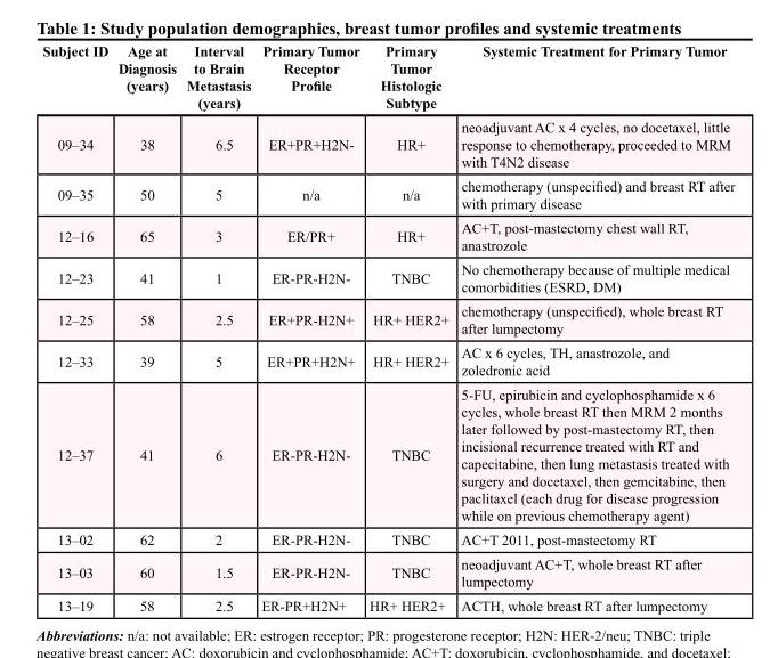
<table><thead><tr><td>Subject ID</td><td>Age at Diagnosis (years)</td><td>Interval to Brain Metastasis (years)</td><td>Primary Tumor Receptor Profile</td><td>Primary Tumor Histologic Subtype</td><td>Systemic Treatment for Primary Tumor</td></tr></thead><tbody><tr><td>09–34</td><td>38</td><td>6.5</td><td>ER+PR+H2N-</td><td>HR+</td><td>neoadjuvant AC x 4 cycles, no docetaxel, little response to chemotherapy, proceeded to MRM with T4N2 disease</td></tr><tr><td>09–35</td><td>50</td><td>5</td><td>n/a</td><td>n/a</td><td>chemotherapy (unspecified) and breast RT after with primary disease</td></tr><tr><td>12–16</td><td>65</td><td>3</td><td>ER/PR+</td><td>HR+</td><td>AC+T, post-mastectomy chest wall RT, anastrozole</td></tr><tr><td>12–23</td><td>41</td><td>1</td><td>ER-PR-H2N-</td><td>TNBC</td><td>No chemotherapy because of multiple medical comorbidities (ESRD, DM)</td></tr><tr><td>12–25</td><td>58</td><td>2.5</td><td>ER+PR-H2N+</td><td>HR+ HER2+</td><td>chemotherapy (unspecified), whole breast RT after lumpectomy</td></tr><tr><td>12–33</td><td>39</td><td>5</td><td>ER+PR+H2N+</td><td>HR+ HER2+</td><td>AC x 6 cycles, TH, anastrozole, and zoledronic acid</td></tr><tr><td>12–37</td><td>41</td><td>6</td><td>ER-PR-H2N-</td><td>TNBC</td><td>5-FU, epirubicin and cyclophosphamide x 6 cycles, whole breast RT then MRM 2 months later followed by post-mastectomy RT, then incisional recurrence treated with RT and capecitabine, then lung metastasis treated with surgery and docetaxel, then gemcitabine, then paclitaxel (each drug for disease progression while on previous chemotherapy agent)</td></tr><tr><td>13–02</td><td>62</td><td>2</td><td>ER-PR-H2N-</td><td>TNBC</td><td>AC+T 2011, post-mastectomy RT</td></tr><tr><td>13–03</td><td>60</td><td>1.5</td><td>ER-PR-H2N-</td><td>TNBC</td><td>neoadjuvant AC+T, whole breast RT after lumpectomy</td></tr><tr><td>13–19</td><td>58</td><td>2.5</td><td>ER-PR+H2N+</td><td>HR+ HER2+</td><td>ACTH, whole breast RT after lumpectomy</td></tr></tbody></table>